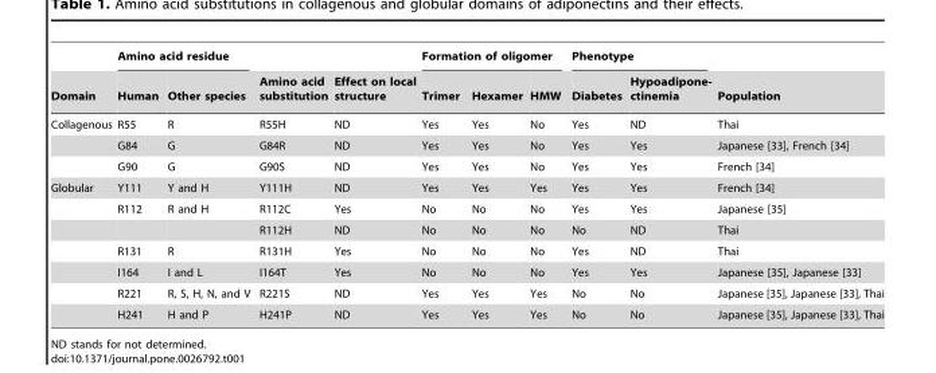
<table><thead><tr><td rowspan="2">Domain</td><td colspan="2">Amino acid residue</td><td rowspan="2">Amino acid substitution</td><td rowspan="2">Effect on local structure</td><td colspan="3">Formation of oligomer</td><td colspan="2">Phenotype</td><td rowspan="2">Population</td></tr><tr><td>Human</td><td>Other species</td><td>Trimer</td><td>Hexamer</td><td>HMW</td><td>Diabetes</td><td>Hypoadipone- ctinemia</td></tr></thead><tbody><tr><td rowspan="3">Collagenous</td><td>R55</td><td>R</td><td>R55H</td><td>ND</td><td>Yes</td><td>Yes</td><td>No</td><td>Yes</td><td>ND</td><td>Thai</td></tr><tr><td>G84</td><td>G</td><td>G84R</td><td>ND</td><td>Yes</td><td>Yes</td><td>No</td><td>Yes</td><td>Yes</td><td>Japanese [33], French [34]</td></tr><tr><td>G90</td><td>G</td><td>G90S</td><td>ND</td><td>Yes</td><td>Yes</td><td>No</td><td>Yes</td><td>Yes</td><td>French [34]</td></tr><tr><td rowspan="7">Globular</td><td>Y111</td><td>Y and H</td><td>Y111H</td><td>ND</td><td>Yes</td><td>Yes</td><td>Yes</td><td>Yes</td><td>Yes</td><td>French [34]</td></tr><tr><td>R112</td><td>R and H</td><td>R112C</td><td>Yes</td><td>No</td><td>No</td><td>No</td><td>Yes</td><td>Yes</td><td>Japanese [35]</td></tr><tr><td></td><td></td><td>R112H</td><td>ND</td><td>No</td><td>No</td><td>No</td><td>No</td><td>ND</td><td>Thai</td></tr><tr><td>R131</td><td>R</td><td>R131H</td><td>Yes</td><td>No</td><td>No</td><td>No</td><td>Yes</td><td>ND</td><td>Thai</td></tr><tr><td>I164</td><td>I and L</td><td>I164T</td><td>Yes</td><td>No</td><td>No</td><td>No</td><td>Yes</td><td>Yes</td><td>Japanese [35], Japanese [33]</td></tr><tr><td>R221</td><td>R, S, H, N, and V</td><td>R221S</td><td>ND</td><td>Yes</td><td>Yes</td><td>Yes</td><td>No</td><td>No</td><td>Japanese [35], Japanese [33], Thai</td></tr><tr><td>H241</td><td>H and P</td><td>H241P</td><td>ND</td><td>Yes</td><td>Yes</td><td>Yes</td><td>No</td><td>No</td><td>Japanese [35], Japanese [33], Thai</td></tr></tbody></table>